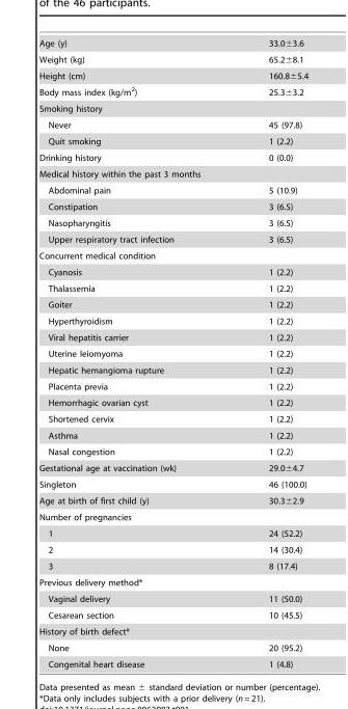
<table><tbody><tr><td>Age (y)</td><td>33.0±3.6</td></tr><tr><td>Weight (kg)</td><td>65.2±8.1</td></tr><tr><td>Height (cm)</td><td>160.8±5.4</td></tr><tr><td>Body mass index (kg/m<sup>2</sup>)</td><td>25.3±3.2</td></tr><tr><td colspan="2">Smoking history</td></tr><tr><td>Never</td><td>45 (97.8)</td></tr><tr><td>Quit smoking</td><td>1 (2.2)</td></tr><tr><td>Drinking history</td><td>0 (0.0)</td></tr><tr><td colspan="2">Medical history within the past 3 months</td></tr><tr><td>Abdominal pain</td><td>5 (10.9)</td></tr><tr><td>Constipation</td><td>3 (6.5)</td></tr><tr><td>Nasopharyngitis</td><td>3 (6.5)</td></tr><tr><td>Upper respiratory tract infection</td><td>3 (6.5)</td></tr><tr><td colspan="2">Concurrent medical condition</td></tr><tr><td>Cyanosis</td><td>1 (2.2)</td></tr><tr><td>Thalassemia</td><td>1 (2.2)</td></tr><tr><td>Goiter</td><td>1 (2.2)</td></tr><tr><td>Hyperthyroidism</td><td>1 (2.2)</td></tr><tr><td>Viral hepatitis carrier</td><td>1 (2.2)</td></tr><tr><td>Uterine leiomyoma</td><td>1 (2.2)</td></tr><tr><td>Hepatic hemangioma rupture</td><td>1 (2.2)</td></tr><tr><td>Placenta previa</td><td>1 (2.2)</td></tr><tr><td>Hemorrhagic ovarian cyst</td><td>1 (2.2)</td></tr><tr><td>Shortened cervix</td><td>1 (2.2)</td></tr><tr><td>Asthma</td><td>1 (2.2)</td></tr><tr><td>Nasal congestion</td><td>1 (2.2)</td></tr><tr><td>Gestational age at vaccination (wk)</td><td>29.0±4.7</td></tr><tr><td>Singleton</td><td>46 (100.0)</td></tr><tr><td>Age at birth of first child (y)</td><td>30.3±2.9</td></tr><tr><td colspan="2">Number of pregnancies</td></tr><tr><td>1</td><td>24 (52.2)</td></tr><tr><td>2</td><td>14 (30.4)</td></tr><tr><td>3</td><td>8 (17.4)</td></tr><tr><td colspan="2">Previous delivery method*</td></tr><tr><td>Vaginal delivery</td><td>11 (50.0)</td></tr><tr><td>Cesarean section</td><td>10 (45.5)</td></tr><tr><td colspan="2">History of birth defect*</td></tr><tr><td>None</td><td>20 (95.2)</td></tr><tr><td>Congenital heart disease</td><td>1 (4.8)</td></tr></tbody></table>